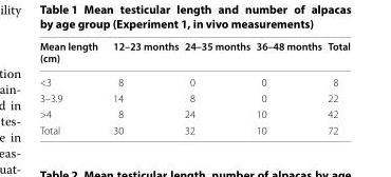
<table><thead><tr><td>Mean length (cm)</td><td>12–23 months</td><td>24–35 months</td><td>36–48 months</td><td>Total</td></tr></thead><tbody><tr><td>&lt;3</td><td>8</td><td>0</td><td>0</td><td>8</td></tr><tr><td>3–3.9</td><td>14</td><td>8</td><td>0</td><td>22</td></tr><tr><td>&gt;4</td><td>8</td><td>24</td><td>10</td><td>42</td></tr><tr><td>Total</td><td>30</td><td>32</td><td>10</td><td>72</td></tr></tbody></table>